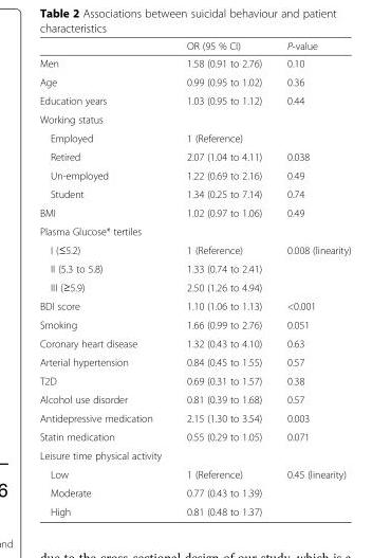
<table><thead><tr><td></td><td>OR (95 % CI)</td><td>P-value</td></tr></thead><tbody><tr><td>Men</td><td>1.58 (0.91 to 2.76)</td><td>0.10</td></tr><tr><td>Age</td><td>0.99 (0.95 to 1.02)</td><td>0.36</td></tr><tr><td>Education years</td><td>1.03 (0.95 to 1.12)</td><td>0.44</td></tr><tr><td colspan="3">Working status</td></tr><tr><td>Employed</td><td>1 (Reference)</td><td></td></tr><tr><td>Retired</td><td>2.07 (1.04 to 4.11)</td><td>0.038</td></tr><tr><td>Un-employed</td><td>1.22 (0.69 to 2.16)</td><td>0.49</td></tr><tr><td>Student</td><td>1.34 (0.25 to 7.14)</td><td>0.74</td></tr><tr><td>BMI</td><td>1.02 (0.97 to 1.06)</td><td>0.49</td></tr><tr><td colspan="3">Plasma Glucose* tertiles</td></tr><tr><td>I (≤5.2)</td><td>1 (Reference)</td><td>0.008 (linearity)</td></tr><tr><td>II (5.3 to 5.8)</td><td>1.33 (0.74 to 2.41)</td><td></td></tr><tr><td>III (≥5.9)</td><td>2.50 (1.26 to 4.94)</td><td></td></tr><tr><td>BDI score</td><td>1.10 (1.06 to 1.13)</td><td>&lt;0.001</td></tr><tr><td>Smoking</td><td>1.66 (0.99 to 2.76)</td><td>0.051</td></tr><tr><td>Coronary heart disease</td><td>1.32 (0.43 to 4.10)</td><td>0.63</td></tr><tr><td>Arterial hypertension</td><td>0.84 (0.45 to 1.55)</td><td>0.57</td></tr><tr><td>T2D</td><td>0.69 (0.31 to 1.57)</td><td>0.38</td></tr><tr><td>Alcohol use disorder</td><td>0.81 (0.39 to 1.68)</td><td>0.57</td></tr><tr><td>Antidepressive medication</td><td>2.15 (1.30 to 3.54)</td><td>0.003</td></tr><tr><td>Statin medication</td><td>0.55 (0.29 to 1.05)</td><td>0.071</td></tr><tr><td colspan="3">Leisure time physical activity</td></tr><tr><td>Low</td><td>1 (Reference)</td><td>0.45 (linearity)</td></tr><tr><td>Moderate</td><td>0.77 (0.43 to 1.39)</td><td></td></tr><tr><td>High</td><td>0.81 (0.48 to 1.37)</td><td></td></tr></tbody></table>